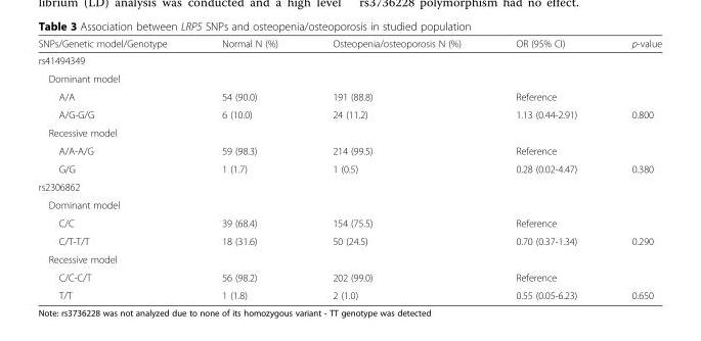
<table><thead><tr><td>SNPs/Genetic model/Genotype</td><td>Normal N (%)</td><td>Osteopenia/osteoporosis N (%)</td><td>OR (95% CI)</td><td>p-value</td></tr></thead><tbody><tr><td colspan="5">rs41494349</td></tr><tr><td colspan="5">Dominant model</td></tr><tr><td>A/A</td><td>54 (90.0)</td><td>191 (88.8)</td><td>Reference</td><td></td></tr><tr><td>A/G-G/G</td><td>6 (10.0)</td><td>24 (11.2)</td><td>1.13 (0.44-2.91)</td><td>0.800</td></tr><tr><td colspan="5">Recessive model</td></tr><tr><td>A/A-A/G</td><td>59 (98.3)</td><td>214 (99.5)</td><td>Reference</td><td></td></tr><tr><td>G/G</td><td>1 (1.7)</td><td>1 (0.5)</td><td>0.28 (0.02-4.47)</td><td>0.380</td></tr><tr><td colspan="5">rs2306862</td></tr><tr><td colspan="5">Dominant model</td></tr><tr><td>C/C</td><td>39 (68.4)</td><td>154 (75.5)</td><td>Reference</td><td></td></tr><tr><td>C/T-T/T</td><td>18 (31.6)</td><td>50 (24.5)</td><td>0.70 (0.37-1.34)</td><td>0.290</td></tr><tr><td colspan="5">Recessive model</td></tr><tr><td>C/C-C/T</td><td>56 (98.2)</td><td>202 (99.0)</td><td>Reference</td><td></td></tr><tr><td>T/T</td><td>1 (1.8)</td><td>2 (1.0)</td><td>0.55 (0.05-6.23)</td><td>0.650</td></tr></tbody></table>